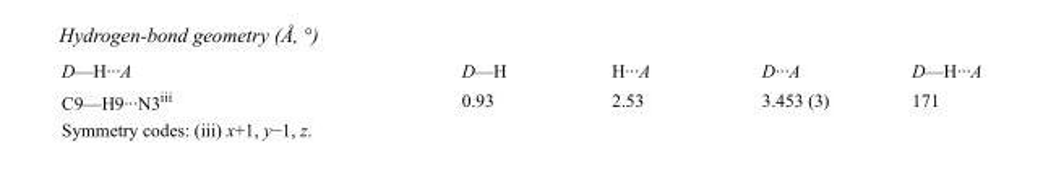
<table><tbody><tr><td>D—H···A</td><td>D—H</td><td>H···A</td><td>D···A</td><td>D—H···A</td></tr><tr><td>C9—H9···N3<sup>iii</sup></td><td>0.93</td><td>2.53</td><td>3.453 (3)</td><td>171</td></tr></tbody></table>